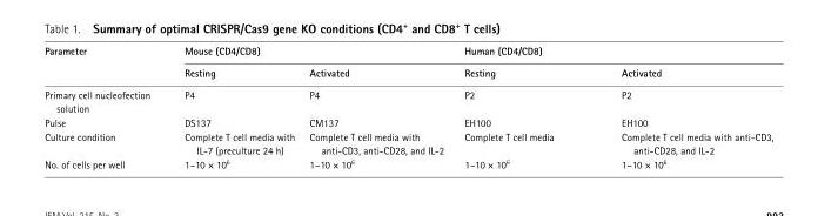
<table><thead><tr><td rowspan="2">Parameter</td><td colspan="2">Mouse (CD4/CD8)</td><td colspan="2">Human (CD4/CD8)</td></tr><tr><td>Resting</td><td>Activated</td><td>Resting</td><td>Activated</td></tr></thead><tbody><tr><td>Primary cell nucleofection solution</td><td>P4</td><td>P4</td><td>P2</td><td>P2</td></tr><tr><td>Pulse</td><td>DS137</td><td>CM137</td><td>EH100</td><td>EH100</td></tr><tr><td>Culture condition</td><td>Complete T cell media with IL-7 (preculture 24 h)</td><td>Complete T cell media with anti-CD3, anti-CD28, and IL-2</td><td>Complete T cell media</td><td>Complete T cell media with anti-CD3, anti-CD28, and IL-2</td></tr><tr><td>No. of cells per well</td><td>1–10 × 10<sup>6</sup></td><td>1–10 × 10<sup>6</sup></td><td>1–10 × 10<sup>6</sup></td><td>1–10 × 10<sup>6</sup></td></tr></tbody></table>